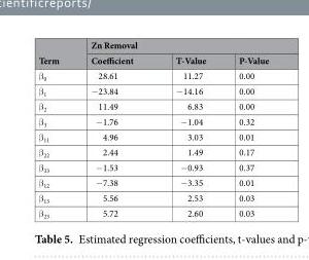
<table><thead><tr><td rowspan="2">Term</td><td colspan="3">Zn Removal</td></tr><tr><td>Coefficient</td><td>T-Value</td><td>P-Value</td></tr></thead><tbody><tr><td>β<sub>0</sub></td><td>28.61</td><td>11.27</td><td>0.00</td></tr><tr><td>β<sub>1</sub></td><td>−23.84</td><td>−14.16</td><td>0.00</td></tr><tr><td>β<sub>2</sub></td><td>11.49</td><td>6.83</td><td>0.00</td></tr><tr><td>β<sub>3</sub></td><td>−1.76</td><td>−1.04</td><td>0.32</td></tr><tr><td>β<sub>11</sub></td><td>4.96</td><td>3.03</td><td>0.01</td></tr><tr><td>β<sub>22</sub></td><td>2.44</td><td>1.49</td><td>0.17</td></tr><tr><td>β<sub>33</sub></td><td>−1.53</td><td>−0.93</td><td>0.37</td></tr><tr><td>β<sub>12</sub></td><td>−7.38</td><td>−3.35</td><td>0.01</td></tr><tr><td>β<sub>13</sub></td><td>5.56</td><td>2.53</td><td>0.03</td></tr><tr><td>β<sub>23</sub></td><td>5.72</td><td>2.60</td><td>0.03</td></tr></tbody></table>